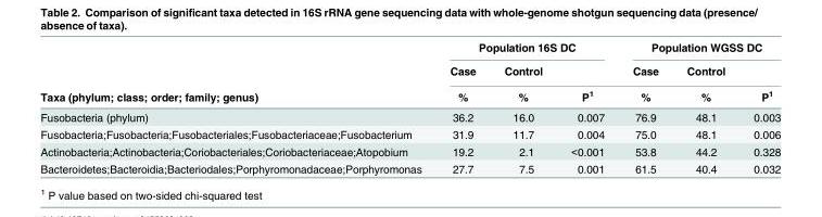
<table><thead><tr><td rowspan="3">Taxa (phylum; class; order; family; genus)</td><td colspan="3">Population 16S DC</td><td colspan="3">Population WGSS DC</td></tr><tr><td rowspan="2">Case %</td><td rowspan="2">Control %</td><td rowspan="2">P<sup>1</sup></td><td rowspan="2">Case %</td><td rowspan="2">Control %</td><td rowspan="2">P<sup>1</sup></td></tr><tr></tr></thead><tbody><tr><td>Fusobacteria (phylum)</td><td>36.2</td><td>16.0</td><td>0.007</td><td>76.9</td><td>48.1</td><td>0.003</td></tr><tr><td>Fusobacteria;Fusobacteria;Fusobacteriales;Fusobacteriaceae;Fusobacterium</td><td>31.9</td><td>11.7</td><td>0.004</td><td>75.0</td><td>48.1</td><td>0.006</td></tr><tr><td>Actinobacteria;Actinobacteria;Coriobacteriales;Coriobacteriaceae;Atopobium</td><td>19.2</td><td>2.1</td><td>&lt;0.001</td><td>53.8</td><td>44.2</td><td>0.328</td></tr><tr><td>Bacteroidetes;Bacteroidia;Bacteriodales;Porphyromonadaceae;Porphyromonas</td><td>27.7</td><td>7.5</td><td>0.001</td><td>61.5</td><td>40.4</td><td>0.032</td></tr></tbody></table>